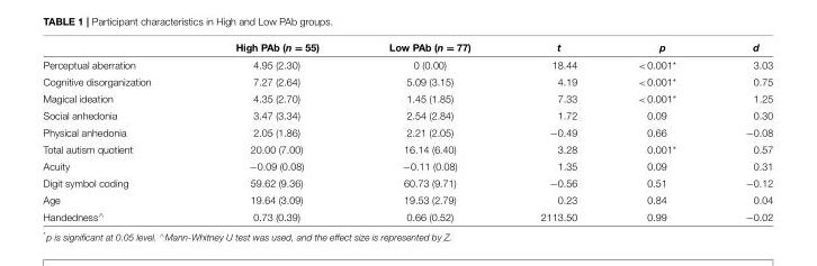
<table><thead><tr><td></td><td>High PAb (n = 55)</td><td>Low PAb (n = 77)</td><td>t</td><td>p</td><td>d</td></tr></thead><tbody><tr><td>Perceptual aberration</td><td>4.95 (2.30)</td><td>0 (0.00)</td><td>18.44</td><td>&lt;0.001*</td><td>3.03</td></tr><tr><td>Cognitive disorganization</td><td>7.27 (2.64)</td><td>5.09 (3.15)</td><td>4.19</td><td>&lt;0.001*</td><td>0.75</td></tr><tr><td>Magical ideation</td><td>4.35 (2.70)</td><td>1.45 (1.85)</td><td>7.33</td><td>&lt;0.001*</td><td>1.25</td></tr><tr><td>Social anhedonia</td><td>3.47 (3.34)</td><td>2.54 (2.84)</td><td>1.72</td><td>0.09</td><td>0.30</td></tr><tr><td>Physical anhedonia</td><td>2.05 (1.86)</td><td>2.21 (2.05)</td><td>−0.49</td><td>0.66</td><td>−0.08</td></tr><tr><td>Total autism quotient</td><td>20.00 (7.00)</td><td>16.14 (6.40)</td><td>3.28</td><td>0.001*</td><td>0.57</td></tr><tr><td>Acuity</td><td>−0.09 (0.08)</td><td>−0.11 (0.08)</td><td>1.35</td><td>0.09</td><td>0.31</td></tr><tr><td>Digit symbol coding</td><td>59.62 (9.36)</td><td>60.73 (9.71)</td><td>−0.56</td><td>0.51</td><td>−0.12</td></tr><tr><td>Age</td><td>19.64 (3.09)</td><td>19.53 (2.79)</td><td>0.23</td><td>0.84</td><td>0.04</td></tr><tr><td>Handedness<sup>∧</sup></td><td>0.73 (0.39)</td><td>0.66 (0.52)</td><td>2113.50</td><td>0.99</td><td>−0.02</td></tr></tbody></table>